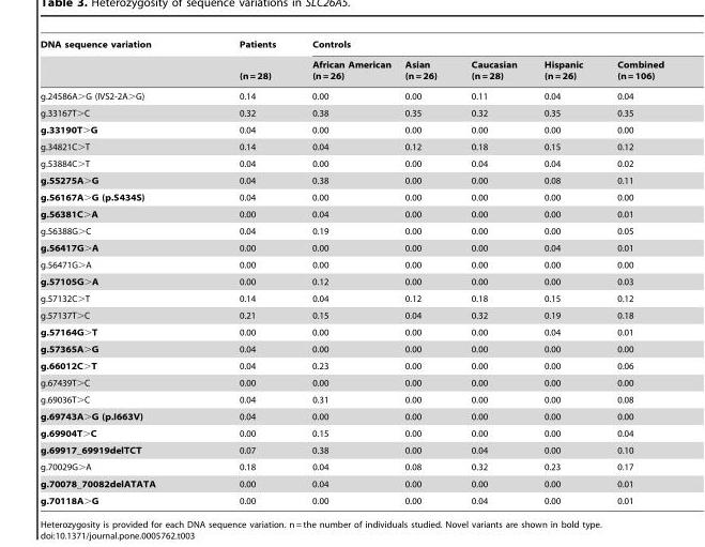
<table><thead><tr><td rowspan="2">DNA sequence variation</td><td rowspan="2">Patients (n = 28)</td><td colspan="5">Controls</td></tr><tr><td>African American (n = 26)</td><td>Asian (n = 26)</td><td>Caucasian (n = 28)</td><td>Hispanic (n = 26)</td><td>Combined (n = 106)</td></tr></thead><tbody><tr><td>g.24586A&gt;G (IVS2-2A&gt;G)</td><td>0.14</td><td>0.00</td><td>0.00</td><td>0.11</td><td>0.04</td><td>0.04</td></tr><tr><td>g.33167T&gt;C</td><td>0.32</td><td>0.38</td><td>0.35</td><td>0.32</td><td>0.35</td><td>0.35</td></tr><tr><td>g.33190T&gt;G</td><td>0.04</td><td>0.00</td><td>0.00</td><td>0.00</td><td>0.00</td><td>0.00</td></tr><tr><td>g.34821C&gt;T</td><td>0.14</td><td>0.04</td><td>0.12</td><td>0.18</td><td>0.15</td><td>0.12</td></tr><tr><td>g.53884C&gt;T</td><td>0.04</td><td>0.00</td><td>0.00</td><td>0.04</td><td>0.04</td><td>0.02</td></tr><tr><td>g.55275A&gt;G</td><td>0.04</td><td>0.38</td><td>0.00</td><td>0.00</td><td>0.08</td><td>0.11</td></tr><tr><td>g.56167A&gt;G (p.S434S)</td><td>0.04</td><td>0.00</td><td>0.00</td><td>0.00</td><td>0.00</td><td>0.00</td></tr><tr><td>g.56381C&gt;A</td><td>0.00</td><td>0.04</td><td>0.00</td><td>0.00</td><td>0.00</td><td>0.01</td></tr><tr><td>g.56388G&gt;C</td><td>0.04</td><td>0.19</td><td>0.00</td><td>0.00</td><td>0.00</td><td>0.05</td></tr><tr><td>g.56417G&gt;A</td><td>0.00</td><td>0.00</td><td>0.00</td><td>0.00</td><td>0.04</td><td>0.01</td></tr><tr><td>g.56471G&gt;A</td><td>0.00</td><td>0.00</td><td>0.00</td><td>0.00</td><td>0.00</td><td>0.00</td></tr><tr><td>g.57105G&gt;A</td><td>0.00</td><td>0.12</td><td>0.00</td><td>0.00</td><td>0.00</td><td>0.03</td></tr><tr><td>g.57132C&gt;T</td><td>0.14</td><td>0.04</td><td>0.12</td><td>0.18</td><td>0.15</td><td>0.12</td></tr><tr><td>g.57137T&gt;C</td><td>0.21</td><td>0.15</td><td>0.04</td><td>0.32</td><td>0.19</td><td>0.18</td></tr><tr><td>g.57164G&gt;T</td><td>0.00</td><td>0.00</td><td>0.00</td><td>0.00</td><td>0.04</td><td>0.01</td></tr><tr><td>g.57365A&gt;G</td><td>0.04</td><td>0.00</td><td>0.00</td><td>0.00</td><td>0.00</td><td>0.00</td></tr><tr><td>g.66012C&gt;T</td><td>0.04</td><td>0.23</td><td>0.00</td><td>0.00</td><td>0.00</td><td>0.06</td></tr><tr><td>g.67439T&gt;C</td><td>0.00</td><td>0.00</td><td>0.00</td><td>0.00</td><td>0.00</td><td>0.00</td></tr><tr><td>g.69036T&gt;C</td><td>0.04</td><td>0.31</td><td>0.00</td><td>0.00</td><td>0.00</td><td>0.08</td></tr><tr><td>g.69743A&gt;G (p.I663V)</td><td>0.04</td><td>0.00</td><td>0.00</td><td>0.00</td><td>0.00</td><td>0.00</td></tr><tr><td>g.69904T&gt;C</td><td>0.00</td><td>0.15</td><td>0.00</td><td>0.00</td><td>0.00</td><td>0.04</td></tr><tr><td>g.69917_69919delTCT</td><td>0.07</td><td>0.38</td><td>0.00</td><td>0.04</td><td>0.00</td><td>0.10</td></tr><tr><td>g.70029G&gt;A</td><td>0.18</td><td>0.04</td><td>0.08</td><td>0.32</td><td>0.23</td><td>0.17</td></tr><tr><td>g.70078_70082delATATA</td><td>0.00</td><td>0.04</td><td>0.00</td><td>0.00</td><td>0.00</td><td>0.01</td></tr><tr><td>g.70118A&gt;G</td><td>0.00</td><td>0.00</td><td>0.00</td><td>0.04</td><td>0.00</td><td>0.01</td></tr></tbody></table>